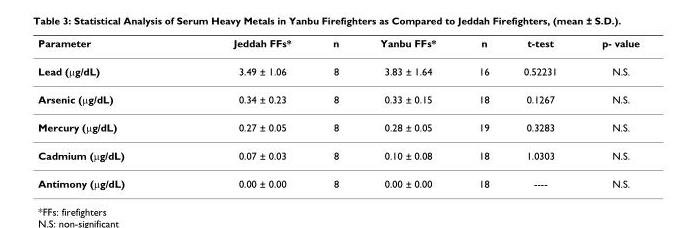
<table><thead><tr><td>Parameter</td><td>Jeddah FFs*</td><td>n</td><td>Yanbu FFs*</td><td>n</td><td>t-test</td><td>p- value</td></tr></thead><tbody><tr><td>Lead (μg/dL)</td><td>3.49 ± 1.06</td><td>8</td><td>3.83 ± 1.64</td><td>16</td><td>0.52231</td><td>N.S.</td></tr><tr><td>Arsenic (μg/dL)</td><td>0.34 ± 0.23</td><td>8</td><td>0.33 ± 0.15</td><td>18</td><td>0.1267</td><td>N.S.</td></tr><tr><td>Mercury (μg/dL)</td><td>0.27 ± 0.05</td><td>8</td><td>0.28 ± 0.05</td><td>19</td><td>0.3283</td><td>N.S.</td></tr><tr><td>Cadmium (μg/dL)</td><td>0.07 ± 0.03</td><td>8</td><td>0.10 ± 0.08</td><td>18</td><td>1.0303</td><td>N.S.</td></tr><tr><td>Antimony (μg/dL)</td><td>0.00 ± 0.00</td><td>8</td><td>0.00 ± 0.00</td><td>18</td><td>----</td><td>N.S.</td></tr></tbody></table>